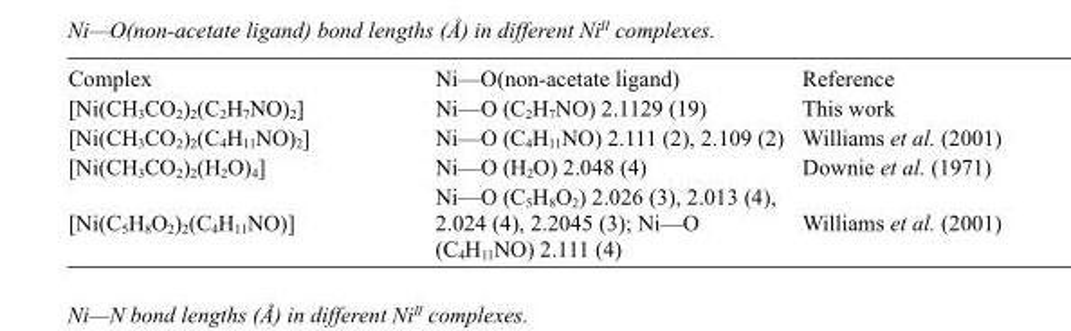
<table><tbody><tr><td>Complex</td><td>Ni—O(non-acetate ligand)</td><td>Reference</td></tr><tr><td>[Ni(CH<sub>3</sub>CO<sub>2</sub>)<sub>2</sub>(C<sub>2</sub>H<sub>7</sub>NO)<sub>2</sub>]</td><td>Ni—O (C<sub>2</sub>H<sub>7</sub>NO) 2.1129 (19)</td><td>This work</td></tr><tr><td>[Ni(CH<sub>3</sub>CO<sub>2</sub>)<sub>2</sub>(C<sub>4</sub>H<sub>11</sub>NO)<sub>2</sub>]</td><td>Ni—O (C<sub>4</sub>H<sub>11</sub>NO) 2.111 (2), 2.109 (2)</td><td>Williams et al. (2001)</td></tr><tr><td>[Ni(CH<sub>3</sub>CO<sub>2</sub>)<sub>2</sub>(H<sub>2</sub>O)<sub>4</sub>]</td><td>Ni—O (H<sub>2</sub>O) 2.048 (4)</td><td>Downie et al. (1971)</td></tr><tr><td>[Ni(C<sub>5</sub>H<sub>8</sub>O<sub>2</sub>)<sub>2</sub>(C<sub>4</sub>H<sub>11</sub>NO)]</td><td>Ni—O (C<sub>5</sub>H<sub>8</sub>O<sub>2</sub>) 2.026 (3), 2.013 (4), 2.024 (4), 2.2045 (3); Ni—O (C<sub>4</sub>H<sub>11</sub>NO) 2.111 (4)</td><td>Williams et al. (2001)</td></tr></tbody></table>